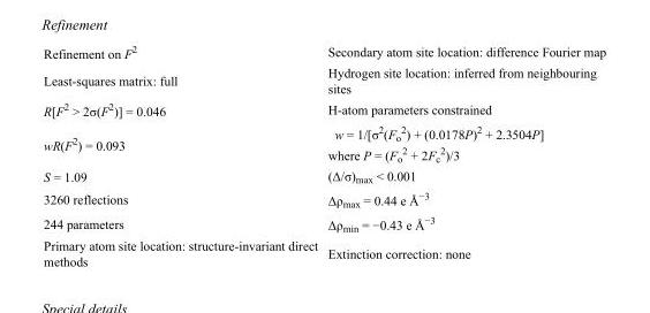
<table><tbody><tr><td>Refinement on F<sup>2</sup></td><td>Secondary atom site location: difference Fourier map</td></tr><tr><td>Least-squares matrix: full</td><td>Hydrogen site location: inferred from neighbouring sites</td></tr><tr><td>R[F<sup>2</sup> &gt; 2σ(F<sup>2</sup>)] = 0.046</td><td>H-atom parameters constrained</td></tr><tr><td>wR(F<sup>2</sup>) = 0.093</td><td>w = 1/[σ<sup>2</sup>(F<sub>o</sub> <sup>2</sup>) + (0.0178P)<sup>2</sup> + 2.3504P] where P = (F<sub>o</sub> <sup>2</sup> + 2F<sub>c</sub> <sup>2</sup>)/3</td></tr><tr><td>S = 1.09</td><td>(Δ/σ)<sub>max</sub> &lt; 0.001</td></tr><tr><td>3260 reflections</td><td>Δρ<sub>max</sub> = 0.44 e Å<sup>−3</sup></td></tr><tr><td>244 parameters</td><td>Δρ<sub>min</sub> = −0.43 e Å<sup>−3</sup></td></tr><tr><td>Primary atom site location: structure-invariant direct methods</td><td>Extinction correction: none</td></tr></tbody></table>